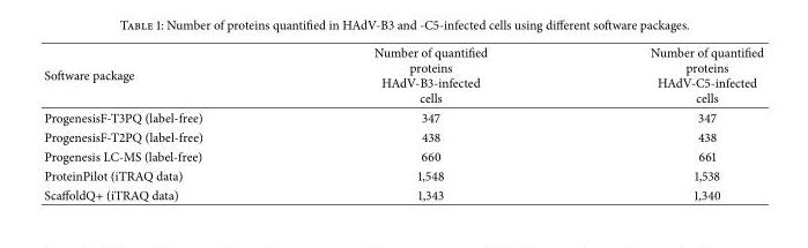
<table><thead><tr><td>Software package</td><td>Number of quantified proteins HAdV-B3-infected cells</td><td>Number of quantified proteins HAdV-C5-infected cells</td></tr></thead><tbody><tr><td>ProgenesisF-T3PQ (label-free)</td><td>347</td><td>347</td></tr><tr><td>ProgenesisF-T2PQ (label-free)</td><td>438</td><td>438</td></tr><tr><td>Progenesis LC-MS (label-free)</td><td>660</td><td>661</td></tr><tr><td>ProteinPilot (iTRAQ data)</td><td>1,548</td><td>1,538</td></tr><tr><td>ScaffoldQ+ (iTRAQ data)</td><td>1,343</td><td>1,340</td></tr></tbody></table>